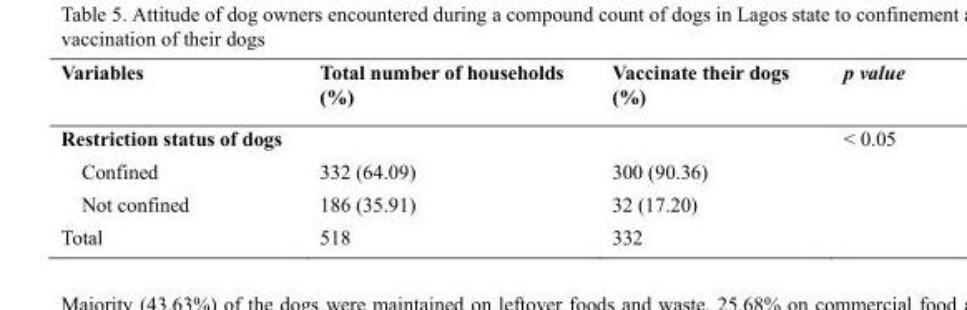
<table><thead><tr><td>Variables</td><td>Total number of households (%)</td><td>Vaccinate their dogs (%)</td><td>p value</td></tr></thead><tbody><tr><td>Restriction status of dogs</td><td></td><td></td><td>&lt; 0.05</td></tr><tr><td>Confined</td><td>332 (64.09)</td><td>300 (90.36)</td><td></td></tr><tr><td>Not confined</td><td>186 (35.91)</td><td>32 (17.20)</td><td></td></tr><tr><td>Total</td><td>518</td><td>332</td><td></td></tr></tbody></table>